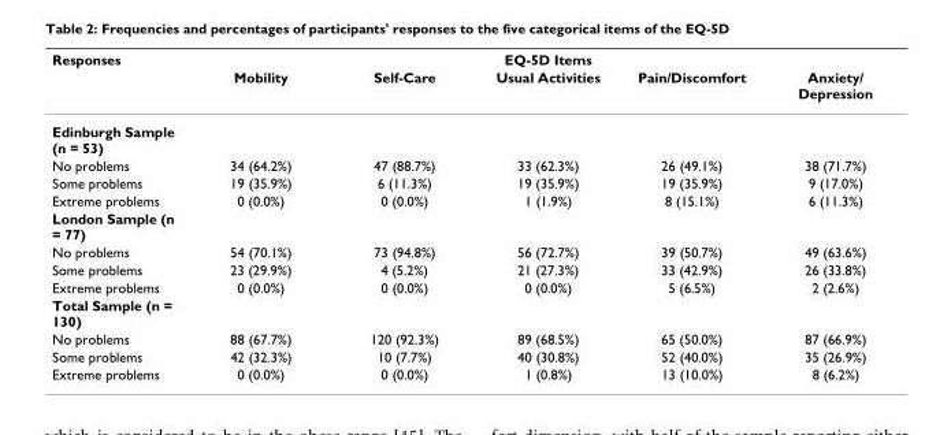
<table><thead><tr><td rowspan="2">Responses</td><td colspan="5">EQ-5D Items</td></tr><tr><td>Mobility</td><td>Self-Care</td><td>Usual Activities</td><td>Pain/Discomfort</td><td>Anxiety/ Depression</td></tr></thead><tbody><tr><td colspan="6">Edinburgh Sample (n = 53)</td></tr><tr><td>No problems</td><td>34 (64.2%)</td><td>47 (88.7%)</td><td>33 (62.3%)</td><td>26 (49.1%)</td><td>38 (71.7%)</td></tr><tr><td>Some problems</td><td>19 (35.9%)</td><td>6 (11.3%)</td><td>19 (35.9%)</td><td>19 (35.9%)</td><td>9 (17.0%)</td></tr><tr><td>Extreme problems</td><td>0 (0.0%)</td><td>0 (0.0%)</td><td>1 (1.9%)</td><td>8 (15.1%)</td><td>6 (11.3%)</td></tr><tr><td colspan="6">London Sample (n = 77)</td></tr><tr><td>No problems</td><td>54 (70.1%)</td><td>73 (94.8%)</td><td>56 (72.7%)</td><td>39 (50.7%)</td><td>49 (63.6%)</td></tr><tr><td>Some problems</td><td>23 (29.9%)</td><td>4 (5.2%)</td><td>21 (27.3%)</td><td>33 (42.9%)</td><td>26 (33.8%)</td></tr><tr><td>Extreme problems</td><td>0 (0.0%)</td><td>0 (0.0%)</td><td>0 (0.0%)</td><td>5 (6.5%)</td><td>2 (2.6%)</td></tr><tr><td colspan="6">Total Sample (n = 130)</td></tr><tr><td>No problems</td><td>88 (67.7%)</td><td>120 (92.3%)</td><td>89 (68.5%)</td><td>65 (50.0%)</td><td>87 (66.9%)</td></tr><tr><td>Some problems</td><td>42 (32.3%)</td><td>10 (7.7%)</td><td>40 (30.8%)</td><td>52 (40.0%)</td><td>35 (26.9%)</td></tr><tr><td>Extreme problems</td><td>0 (0.0%)</td><td>0 (0.0%)</td><td>1 (0.8%)</td><td>13 (10.0%)</td><td>8 (6.2%)</td></tr></tbody></table>